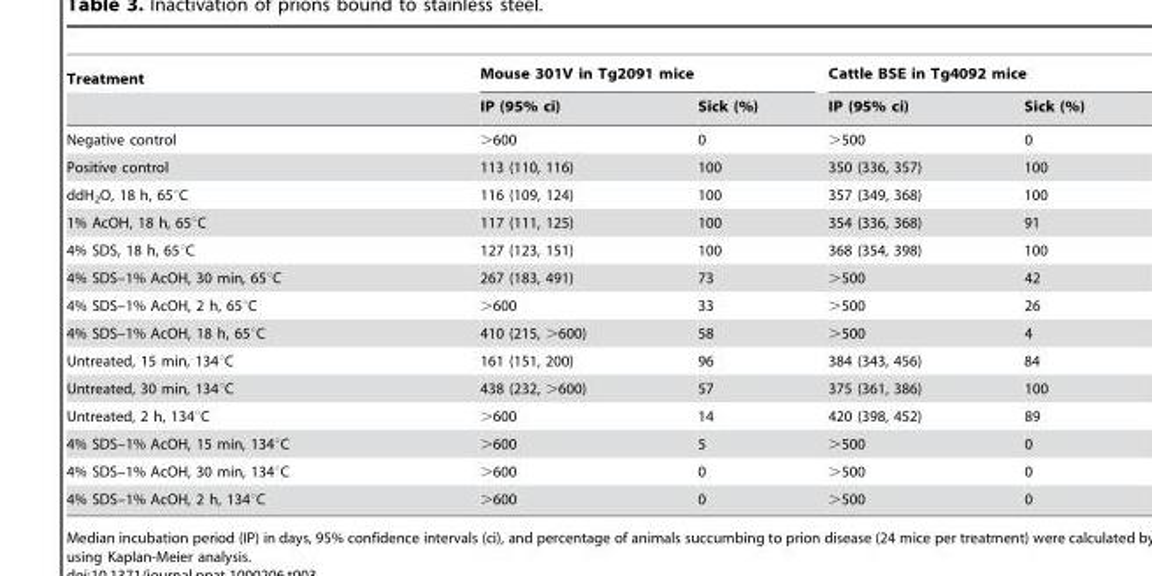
<table><thead><tr><td rowspan="2">Treatment</td><td colspan="2">Mouse 301V in Tg2091 mice</td><td colspan="2">Cattle BSE in Tg4092 mice</td></tr><tr><td>IP (95% ci)</td><td>Sick (%)</td><td>IP (95% ci)</td><td>Sick (%)</td></tr></thead><tbody><tr><td>Negative control</td><td>&gt;600</td><td>0</td><td>&gt;500</td><td>0</td></tr><tr><td>Positive control</td><td>113 (110, 116)</td><td>100</td><td>350 (336, 357)</td><td>100</td></tr><tr><td>ddH<sub>2</sub>O, 18 h, 65°C</td><td>116 (109, 124)</td><td>100</td><td>357 (349, 368)</td><td>100</td></tr><tr><td>1% AcOH, 18 h, 65°C</td><td>117 (111, 125)</td><td>100</td><td>354 (336, 368)</td><td>91</td></tr><tr><td>4% SDS, 18 h, 65°C</td><td>127 (123, 151)</td><td>100</td><td>368 (354, 398)</td><td>100</td></tr><tr><td>4% SDS–1% AcOH, 30 min, 65°C</td><td>267 (183, 491)</td><td>73</td><td>&gt;500</td><td>42</td></tr><tr><td>4% SDS–1% AcOH, 2 h, 65°C</td><td>&gt;600</td><td>33</td><td>&gt;500</td><td>26</td></tr><tr><td>4% SDS–1% AcOH, 18 h, 65°C</td><td>410 (215, &gt;600)</td><td>58</td><td>&gt;500</td><td>4</td></tr><tr><td>Untreated, 15 min, 134°C</td><td>161 (151, 200)</td><td>96</td><td>384 (343, 456)</td><td>84</td></tr><tr><td>Untreated, 30 min, 134°C</td><td>438 (232, &gt;600)</td><td>57</td><td>375 (361, 386)</td><td>100</td></tr><tr><td>Untreated, 2 h, 134°C</td><td>&gt;600</td><td>14</td><td>420 (398, 452)</td><td>89</td></tr><tr><td>4% SDS–1% AcOH, 15 min, 134°C</td><td>&gt;600</td><td>5</td><td>&gt;500</td><td>0</td></tr><tr><td>4% SDS–1% AcOH, 30 min, 134°C</td><td>&gt;600</td><td>0</td><td>&gt;500</td><td>0</td></tr><tr><td>4% SDS–1% AcOH, 2 h, 134°C</td><td>&gt;600</td><td>0</td><td>&gt;500</td><td>0</td></tr></tbody></table>